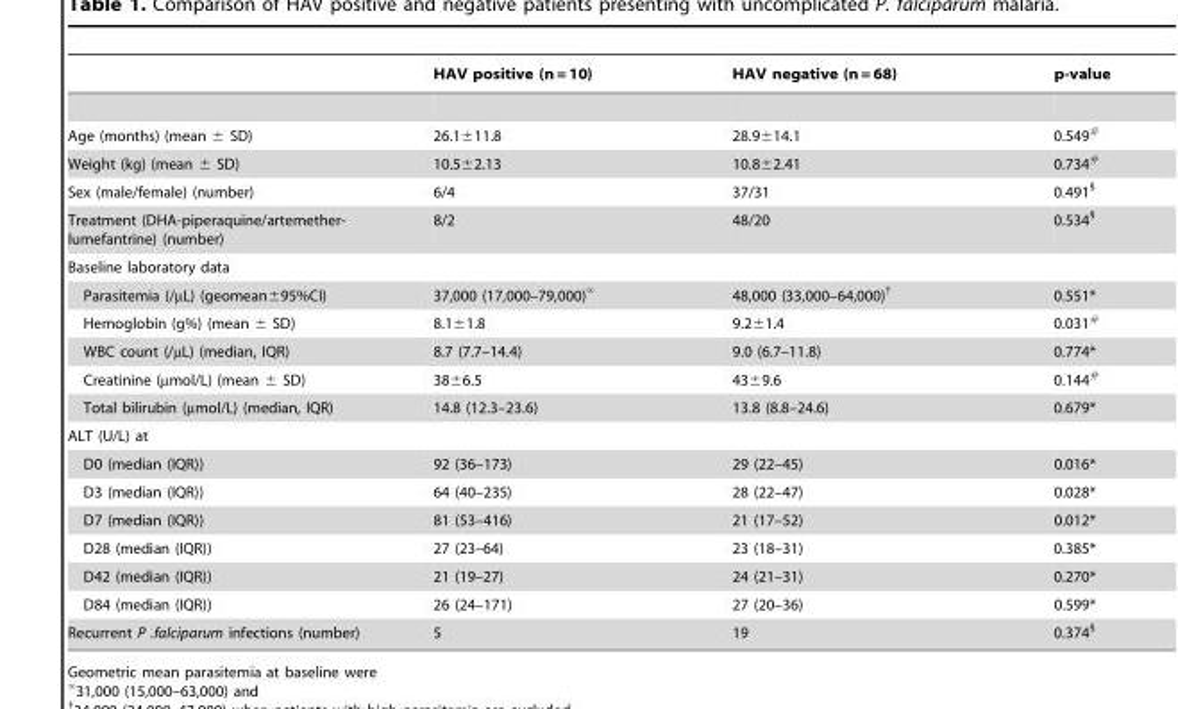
<table><thead><tr><td></td><td>HAV positive (n = 10)</td><td>HAV negative (n = 68)</td><td>p-value</td></tr></thead><tbody><tr><td>Age (months) (mean ± SD)</td><td>26.1±11.8</td><td>28.9±14.1</td><td>0.549#</td></tr><tr><td>Weight (kg) (mean ± SD)</td><td>10.5±2.13</td><td>10.8±2.41</td><td>0.734#</td></tr><tr><td>Sex (male/female) (number)</td><td>6/4</td><td>37/31</td><td>0.491§</td></tr><tr><td>Treatment (DHA-piperaquine/artemether- lumefantrine) (number)</td><td>8/2</td><td>48/20</td><td>0.534§</td></tr><tr><td colspan="4">Baseline laboratory data</td></tr><tr><td>Parasitemia (/µL) (geomean±95%CI)</td><td>37,000 (17,000–79,000)‘</td><td>48,000 (33,000–64,000)†</td><td>0.551*</td></tr><tr><td>Hemoglobin (g%) (mean ± SD)</td><td>8.1±1.8</td><td>9.2±1.4</td><td>0.031#</td></tr><tr><td>WBC count (/µL) (median, IQR)</td><td>8.7 (7.7–14.4)</td><td>9.0 (6.7–11.8)</td><td>0.774*</td></tr><tr><td>Creatinine (µmol/L) (mean ± SD)</td><td>38±6.5</td><td>43±9.6</td><td>0.144#</td></tr><tr><td>Total bilirubin (µmol/L) (median, IQR)</td><td>14.8 (12.3–23.6)</td><td>13.8 (8.8–24.6)</td><td>0.679*</td></tr><tr><td colspan="4">ALT (U/L) at</td></tr><tr><td>D0 (median (IQR))</td><td>92 (36–173)</td><td>29 (22–45)</td><td>0.016*</td></tr><tr><td>D3 (median (IQR))</td><td>64 (40–235)</td><td>28 (22–47)</td><td>0.028*</td></tr><tr><td>D7 (median (IQR))</td><td>81 (53–416)</td><td>21 (17–52)</td><td>0.012*</td></tr><tr><td>D28 (median (IQR))</td><td>27 (23–64)</td><td>23 (18–31)</td><td>0.385*</td></tr><tr><td>D42 (median (IQR))</td><td>21 (19–27)</td><td>24 (21–31)</td><td>0.270*</td></tr><tr><td>D84 (median (IQR))</td><td>26 (24–171)</td><td>27 (20–36)</td><td>0.599*</td></tr><tr><td>Recurrent P .falciparum infections (number)</td><td>5</td><td>19</td><td>0.374§</td></tr></tbody></table>